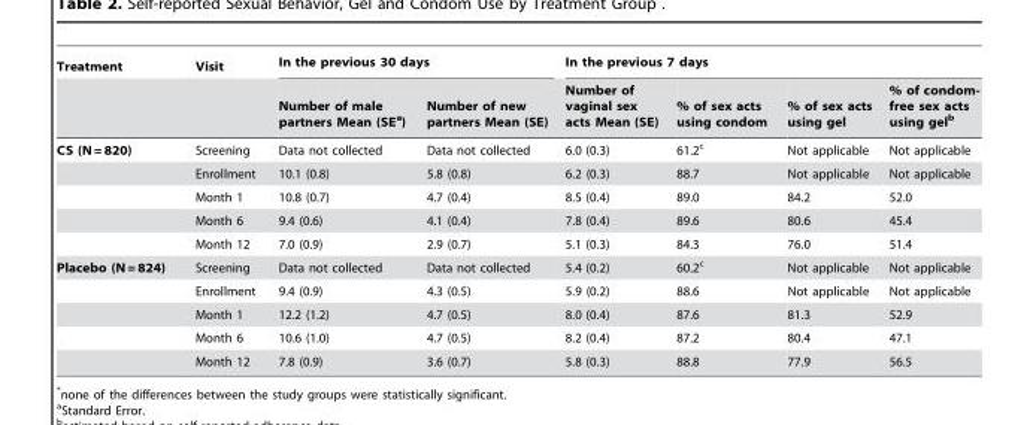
<table><thead><tr><td rowspan="2">Treatment</td><td rowspan="2">Visit</td><td colspan="2">In the previous 30 days</td><td colspan="4">In the previous 7 days</td></tr><tr><td>Number of male partners Mean (SE<sup>a</sup>)</td><td>Number of new partners Mean (SE)</td><td>Number of vaginal sex acts Mean (SE)</td><td>% of sex acts using condom</td><td>% of sex acts using gel</td><td>% of condom- free sex acts using gel<sup>b</sup></td></tr></thead><tbody><tr><td rowspan="5">CS (N = 820)</td><td>Screening</td><td>Data not collected</td><td>Data not collected</td><td>6.0 (0.3)</td><td>61.2<sup>c</sup></td><td>Not applicable</td><td>Not applicable</td></tr><tr><td>Enrollment</td><td>10.1 (0.8)</td><td>5.8 (0.8)</td><td>6.2 (0.3)</td><td>88.7</td><td>Not applicable</td><td>Not applicable</td></tr><tr><td>Month 1</td><td>10.8 (0.7)</td><td>4.7 (0.4)</td><td>8.5 (0.4)</td><td>89.0</td><td>84.2</td><td>52.0</td></tr><tr><td>Month 6</td><td>9.4 (0.6)</td><td>4.1 (0.4)</td><td>7.8 (0.4)</td><td>89.6</td><td>80.6</td><td>45.4</td></tr><tr><td>Month 12</td><td>7.0 (0.9)</td><td>2.9 (0.7)</td><td>5.1 (0.3)</td><td>84.3</td><td>76.0</td><td>51.4</td></tr><tr><td rowspan="5">Placebo (N = 824)</td><td>Screening</td><td>Data not collected</td><td>Data not collected</td><td>5.4 (0.2)</td><td>60.2<sup>c</sup></td><td>Not applicable</td><td>Not applicable</td></tr><tr><td>Enrollment</td><td>9.4 (0.9)</td><td>4.3 (0.5)</td><td>5.9 (0.2)</td><td>88.6</td><td>Not applicable</td><td>Not applicable</td></tr><tr><td>Month 1</td><td>12.2 (1.2)</td><td>4.7 (0.5)</td><td>8.0 (0.4)</td><td>87.6</td><td>81.3</td><td>52.9</td></tr><tr><td>Month 6</td><td>10.6 (1.0)</td><td>4.7 (0.5)</td><td>8.2 (0.4)</td><td>87.2</td><td>80.4</td><td>47.1</td></tr><tr><td>Month 12</td><td>7.8 (0.9)</td><td>3.6 (0.7)</td><td>5.8 (0.3)</td><td>88.8</td><td>77.9</td><td>56.5</td></tr></tbody></table>